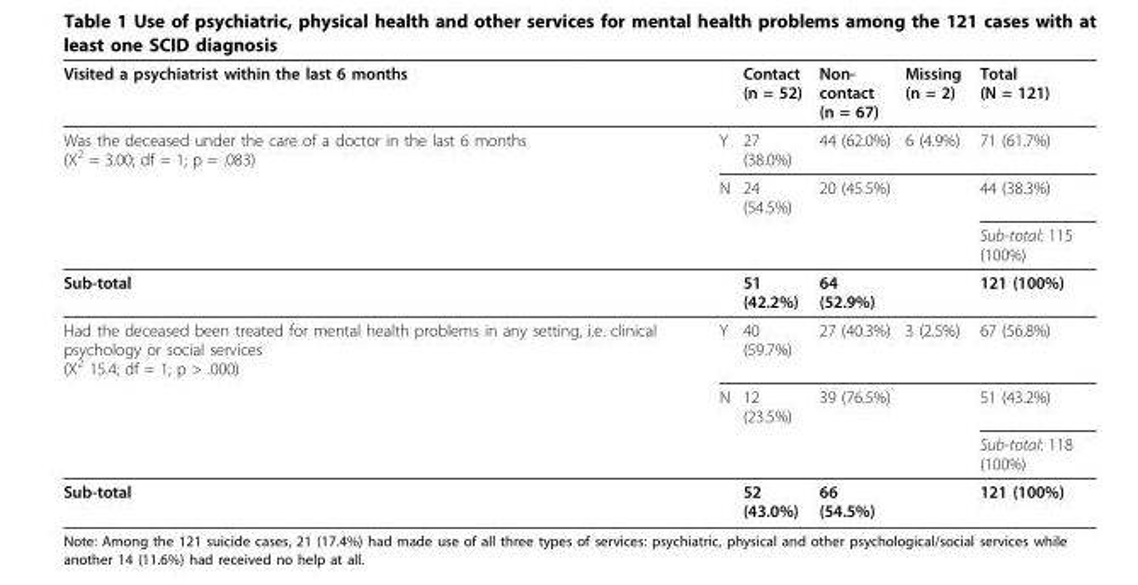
<table><thead><tr><td colspan="2">Visited a psychiatrist within the last 6 months</td><td rowspan="2">Contact (n = 52) 27 (38.0%)</td><td rowspan="2">Non- contact (n = 67) 44 (62.0%)</td><td rowspan="2">Missing (n = 2) 6 (4.9%)</td><td rowspan="2">Total (N = 121) 71 (61.7%)</td></tr><tr><td>Was the deceased under the care of a doctor in the last 6 months (X2 = 3.00; df = 1; p = .083)</td><td>Y</td></tr></thead><tbody><tr><td></td><td>N</td><td>24 (54.5%)</td><td>20 (45.5%)</td><td></td><td>44 (38.3%)</td></tr><tr><td></td><td></td><td></td><td></td><td></td><td>Sub-total: 115 (100%)</td></tr><tr><td>Sub-total</td><td></td><td>51 (42.2%)</td><td>64 (52.9%)</td><td></td><td>121 (100%)</td></tr><tr><td rowspan="3">Had the deceased been treated for mental health problems in any setting, i.e. clinical psychology or social services (X<sup>2</sup> 15.4; df = 1; p &gt; .000)</td><td>Y</td><td>40 (59.7%)</td><td>27 (40.3%)</td><td>3 (2.5%)</td><td>67 (56.8%)</td></tr><tr><td>N</td><td>12 (23.5%)</td><td>39 (76.5%)</td><td></td><td>51 (43.2%)</td></tr><tr><td></td><td></td><td></td><td></td><td>Sub-total: 118 (100%)</td></tr><tr><td>Sub-total</td><td></td><td>52 (43.0%)</td><td>66 (54.5%)</td><td></td><td>121 (100%)</td></tr></tbody></table>